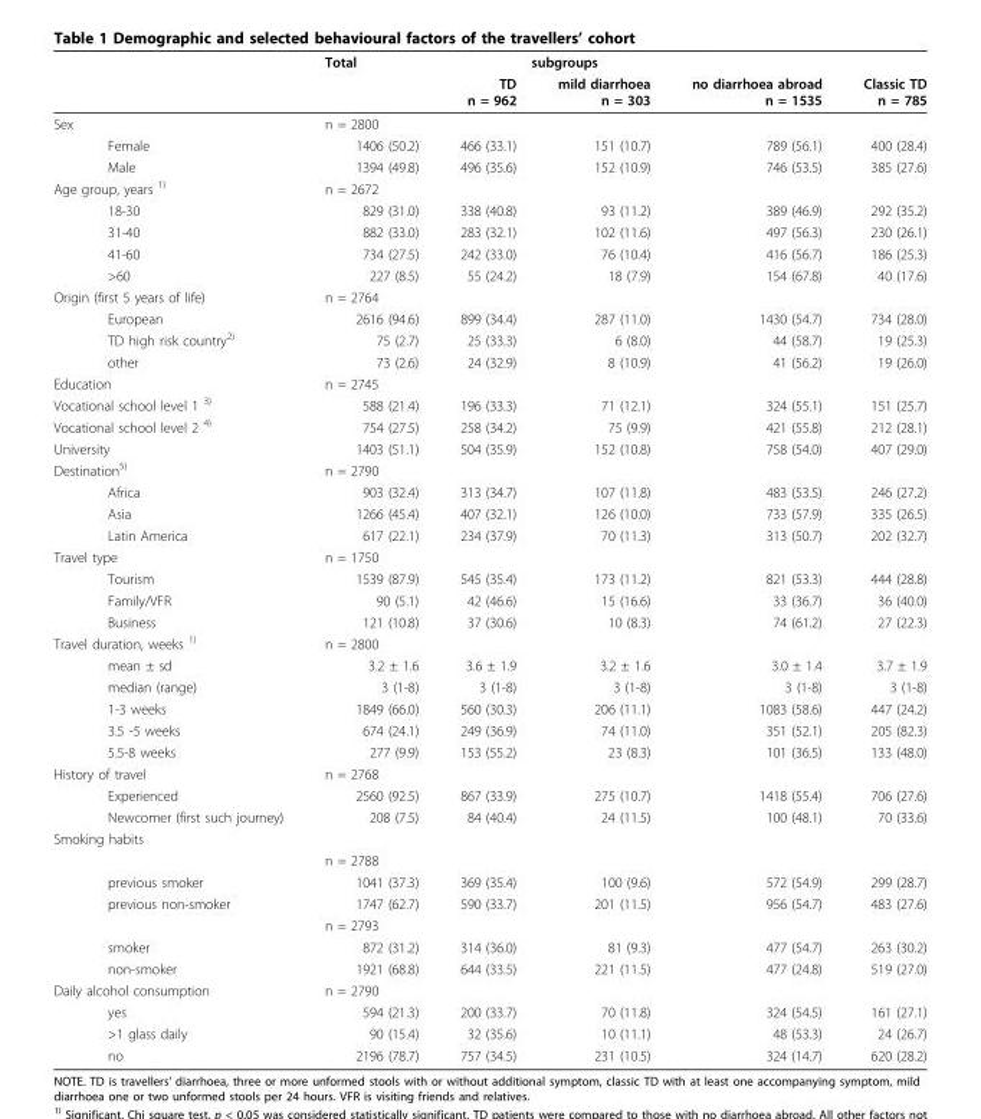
<table><thead><tr><td rowspan="2"></td><td colspan="2">Total</td><td colspan="3">subgroups</td></tr><tr><td></td><td>TD n = 962</td><td>mild diarrhoea n = 303</td><td>no diarrhoea abroad n = 1535</td><td>Classic TD n = 785</td></tr></thead><tbody><tr><td>Sex</td><td>n = 2800</td><td></td><td></td><td></td><td></td></tr><tr><td>Female</td><td>1406 (50.2)</td><td>466 (33.1)</td><td>151 (10.7)</td><td>789 (56.1)</td><td>400 (28.4)</td></tr><tr><td>Male</td><td>1394 (49.8)</td><td>496 (35.6)</td><td>152 (10.9)</td><td>746 (53.5)</td><td>385 (27.6)</td></tr><tr><td>Age group, years <sup>1)</sup></td><td>n = 2672</td><td></td><td></td><td></td><td></td></tr><tr><td>18-30</td><td>829 (31.0)</td><td>338 (40.8)</td><td>93 (11.2)</td><td>389 (46.9)</td><td>292 (35.2)</td></tr><tr><td>31-40</td><td>882 (33.0)</td><td>283 (32.1)</td><td>102 (11.6)</td><td>497 (56.3)</td><td>230 (26.1)</td></tr><tr><td>41-60</td><td>734 (27.5)</td><td>242 (33.0)</td><td>76 (10.4)</td><td>416 (56.7)</td><td>186 (25.3)</td></tr><tr><td>&gt;60</td><td>227 (8.5)</td><td>55 (24.2)</td><td>18 (7.9)</td><td>154 (67.8)</td><td>40 (17.6)</td></tr><tr><td>Origin (first 5 years of life)</td><td>n = 2764</td><td></td><td></td><td></td><td></td></tr><tr><td>European</td><td>2616 (94.6)</td><td>899 (34.4)</td><td>287 (11.0)</td><td>1430 (54.7)</td><td>734 (28.0)</td></tr><tr><td>TD high risk country<sup>2)</sup></td><td>75 (2.7)</td><td>25 (33.3)</td><td>6 (8.0)</td><td>44 (58.7)</td><td>19 (25.3)</td></tr><tr><td>other</td><td>73 (2.6)</td><td>24 (32.9)</td><td>8 (10.9)</td><td>41 (56.2)</td><td>19 (26.0)</td></tr><tr><td>Education</td><td>n = 2745</td><td></td><td></td><td></td><td></td></tr><tr><td>Vocational school level 1 <sup>3)</sup></td><td>588 (21.4)</td><td>196 (33.3)</td><td>71 (12.1)</td><td>324 (55.1)</td><td>151 (25.7)</td></tr><tr><td>Vocational school level 2 <sup>4)</sup></td><td>754 (27.5)</td><td>258 (34.2)</td><td>75 (9.9)</td><td>421 (55.8)</td><td>212 (28.1)</td></tr><tr><td>University</td><td>1403 (51.1)</td><td>504 (35.9)</td><td>152 (10.8)</td><td>758 (54.0)</td><td>407 (29.0)</td></tr><tr><td>Destination<sup>5)</sup></td><td>n = 2790</td><td></td><td></td><td></td><td></td></tr><tr><td>Africa</td><td>903 (32.4)</td><td>313 (34.7)</td><td>107 (11.8)</td><td>483 (53.5)</td><td>246 (27.2)</td></tr><tr><td>Asia</td><td>1266 (45.4)</td><td>407 (32.1)</td><td>126 (10.0)</td><td>733 (57.9)</td><td>335 (26.5)</td></tr><tr><td>Latin America</td><td>617 (22.1)</td><td>234 (37.9)</td><td>70 (11.3)</td><td>313 (50.7)</td><td>202 (32.7)</td></tr><tr><td>Travel type</td><td>n = 1750</td><td></td><td></td><td></td><td></td></tr><tr><td>Tourism</td><td>1539 (87.9)</td><td>545 (35.4)</td><td>173 (11.2)</td><td>821 (53.3)</td><td>444 (28.8)</td></tr><tr><td>Family/VFR</td><td>90 (5.1)</td><td>42 (46.6)</td><td>15 (16.6)</td><td>33 (36.7)</td><td>36 (40.0)</td></tr><tr><td>Business</td><td>121 (10.8)</td><td>37 (30.6)</td><td>10 (8.3)</td><td>74 (61.2)</td><td>27 (22.3)</td></tr><tr><td>Travel duration, weeks <sup>1)</sup></td><td>n = 2800</td><td></td><td></td><td></td><td></td></tr><tr><td>mean ± sd</td><td>3.2 ± 1.6</td><td>3.6 ± 1.9</td><td>3.2 ± 1.6</td><td>3.0 ± 1.4</td><td>3.7 ± 1.9</td></tr><tr><td>median (range)</td><td>3 (1-8)</td><td>3 (1-8)</td><td>3 (1-8)</td><td>3 (1-8)</td><td>3 (1-8)</td></tr><tr><td>1-3 weeks</td><td>1849 (66.0)</td><td>560 (30.3)</td><td>206 (11.1)</td><td>1083 (58.6)</td><td>447 (24.2)</td></tr><tr><td>3.5 -5 weeks</td><td>674 (24.1)</td><td>249 (36.9)</td><td>74 (11.0)</td><td>351 (52.1)</td><td>205 (82.3)</td></tr><tr><td>5.5-8 weeks</td><td>277 (9.9)</td><td>153 (55.2)</td><td>23 (8.3)</td><td>101 (36.5)</td><td>133 (48.0)</td></tr><tr><td>History of travel</td><td>n = 2768</td><td></td><td></td><td></td><td></td></tr><tr><td>Experienced</td><td>2560 (92.5)</td><td>867 (33.9)</td><td>275 (10.7)</td><td>1418 (55.4)</td><td>706 (27.6)</td></tr><tr><td>Newcomer (first such journey)</td><td>208 (7.5)</td><td>84 (40.4)</td><td>24 (11.5)</td><td>100 (48.1)</td><td>70 (33.6)</td></tr><tr><td colspan="6">Smoking habits</td></tr><tr><td></td><td>n = 2788</td><td></td><td></td><td></td><td></td></tr><tr><td>previous smoker</td><td>1041 (37.3)</td><td>369 (35.4)</td><td>100 (9.6)</td><td>572 (54.9)</td><td>299 (28.7)</td></tr><tr><td rowspan="2">previous non-smoker</td><td>1747 (62.7)</td><td>590 (33.7)</td><td>201 (11.5)</td><td>956 (54.7)</td><td>483 (27.6)</td></tr><tr><td>n = 2793</td><td></td><td></td><td></td><td></td></tr><tr><td>smoker</td><td>872 (31.2)</td><td>314 (36.0)</td><td>81 (9.3)</td><td>477 (54.7)</td><td>263 (30.2)</td></tr><tr><td>non-smoker</td><td>1921 (68.8)</td><td>644 (33.5)</td><td>221 (11.5)</td><td>477 (24.8)</td><td>519 (27.0)</td></tr><tr><td>Daily alcohol consumption</td><td>n = 2790</td><td></td><td></td><td></td><td></td></tr><tr><td>yes</td><td>594 (21.3)</td><td>200 (33.7)</td><td>70 (11.8)</td><td>324 (54.5)</td><td>161 (27.1)</td></tr><tr><td>&gt;1 glass daily</td><td>90 (15.4)</td><td>32 (35.6)</td><td>10 (11.1)</td><td>48 (53.3)</td><td>24 (26.7)</td></tr><tr><td>no</td><td>2196 (78.7)</td><td>757 (34.5)</td><td>231 (10.5)</td><td>324 (14.7)</td><td>620 (28.2)</td></tr></tbody></table>